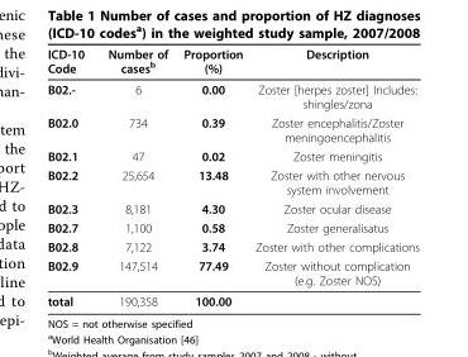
<table><thead><tr><td>ICD-10 Code</td><td>Number of cases<sup>b</sup></td><td>Proportion (%)</td><td>Description</td></tr></thead><tbody><tr><td>B02.-</td><td>6</td><td>0.00</td><td>Zoster [herpes zoster] Includes: shingles/zona</td></tr><tr><td>B02.0</td><td>734</td><td>0.39</td><td>Zoster encephalitis/Zoster meningoencephalitis</td></tr><tr><td>B02.1</td><td>47</td><td>0.02</td><td>Zoster meningitis</td></tr><tr><td>B02.2</td><td>25,654</td><td>13.48</td><td>Zoster with other nervous system involvement</td></tr><tr><td>B02.3</td><td>8,181</td><td>4.30</td><td>Zoster ocular disease</td></tr><tr><td>B02.7</td><td>1,100</td><td>0.58</td><td>Zoster generalisatus</td></tr><tr><td>B02.8</td><td>7,122</td><td>3.74</td><td>Zoster with other complications</td></tr><tr><td>B02.9</td><td>147,514</td><td>77.49</td><td>Zoster without complication (e.g. Zoster NOS)</td></tr><tr><td>total</td><td>190,358</td><td>100.00</td><td></td></tr></tbody></table>